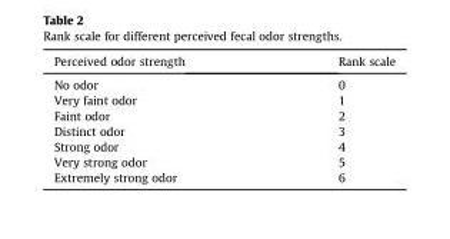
<table><thead><tr><td>Perceived odor strength</td><td>Rank scale</td></tr></thead><tbody><tr><td>No odor</td><td>0</td></tr><tr><td>Very faint odor</td><td>1</td></tr><tr><td>Faint odor</td><td>2</td></tr><tr><td>Distinct odor</td><td>3</td></tr><tr><td>Strong odor</td><td>4</td></tr><tr><td>Very strong odor</td><td>5</td></tr><tr><td>Extremely strong odor</td><td>6</td></tr></tbody></table>